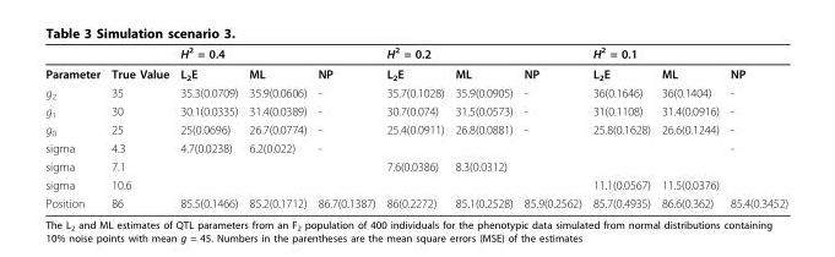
<table><thead><tr><td></td><td></td><td>H<sup>2</sup> = 0.4</td><td></td><td></td><td>H<sup>2</sup> = 0.2</td><td></td><td></td><td>H<sup>2</sup> = 0.1</td><td></td><td></td></tr></thead><tbody><tr><td>Parameter</td><td>True Value</td><td>L<sub>2</sub>E</td><td>ML</td><td>NP</td><td>L<sub>2</sub>E</td><td>ML</td><td>NP</td><td>L<sub>2</sub>E</td><td>ML</td><td>NP</td></tr><tr><td>g<sub>2</sub></td><td>35</td><td>35.3(0.0709)</td><td>35.9(0.0606)</td><td>-</td><td>35.7(0.1028)</td><td>35.9(0.0905)</td><td>-</td><td>36(0.1646)</td><td>36(0.1404)</td><td>-</td></tr><tr><td>g<sub>1</sub></td><td>30</td><td>30.1(0.0335)</td><td>31.4(0.0389)</td><td>-</td><td>30.7(0.074)</td><td>31.5(0.0573)</td><td>-</td><td>31(0.1108)</td><td>31.4(0.0916)</td><td>-</td></tr><tr><td>g<sub>0</sub></td><td>25</td><td>25(0.0696)</td><td>26.7(0.0774)</td><td>-</td><td>25.4(0.0911)</td><td>26.8(0.0881)</td><td>-</td><td>25.8(0.1628)</td><td>26.6(0.1244)</td><td>-</td></tr><tr><td>sigma</td><td>4.3</td><td>4.7(0.0238)</td><td>6.2(0.022)</td><td>-</td><td></td><td></td><td></td><td></td><td></td><td>-</td></tr><tr><td>sigma</td><td>7.1</td><td></td><td></td><td></td><td>7.6(0.0386)</td><td>8.3(0.0312)</td><td></td><td></td><td></td><td></td></tr><tr><td>sigma</td><td>10.6</td><td></td><td></td><td></td><td></td><td></td><td></td><td>11.1(0.0567)</td><td>11.5(0.0376)</td><td></td></tr><tr><td>Position</td><td>86</td><td>85.5(0.1466)</td><td>85.2(0.1712)</td><td>86.7(0.1387)</td><td>86(0.2272)</td><td>85.1(0.2528)</td><td>85.9(0.2562)</td><td>85.7(0.4935)</td><td>86.6(0.362)</td><td>85.4(0.3452)</td></tr></tbody></table>